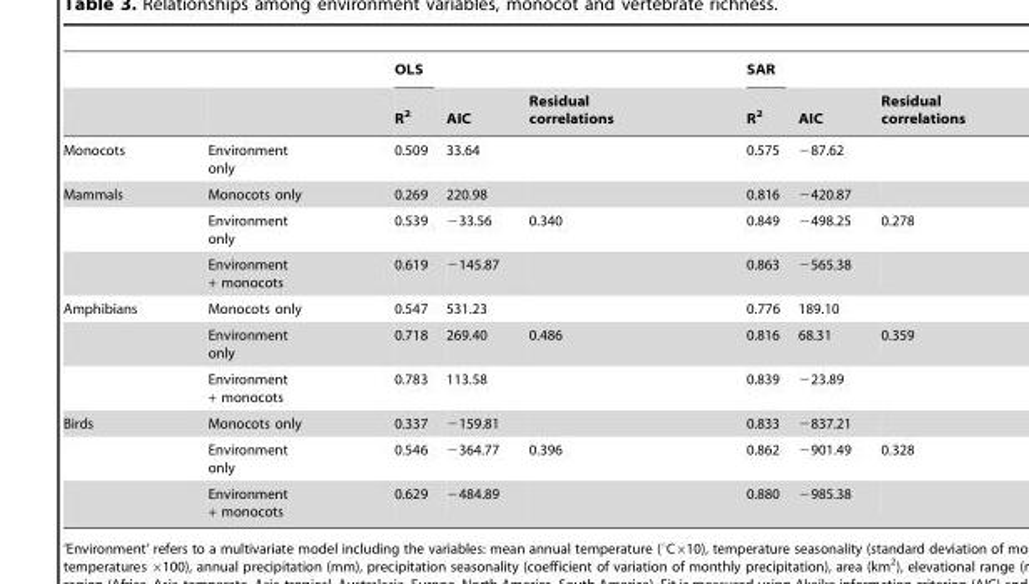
<table><thead><tr><td rowspan="2"></td><td rowspan="2"></td><td rowspan="2">OLS R<sup>2</sup></td><td rowspan="2">AIC</td><td rowspan="2">Residual correlations</td><td rowspan="2">SAR R<sup>2</sup></td><td rowspan="2">AIC</td><td rowspan="2">Residual correlations</td></tr><tr></tr></thead><tbody><tr><td>Monocots</td><td>Environment only</td><td>0.509</td><td>33.64</td><td></td><td>0.575</td><td>−87.62</td><td></td></tr><tr><td rowspan="3">Mammals</td><td>Monocots only</td><td>0.269</td><td>220.98</td><td></td><td>0.816</td><td>−420.87</td><td></td></tr><tr><td>Environment only</td><td>0.539</td><td>−33.56</td><td>0.340</td><td>0.849</td><td>−498.25</td><td>0.278</td></tr><tr><td>Environment + monocots</td><td>0.619</td><td>−145.87</td><td></td><td>0.863</td><td>−565.38</td><td></td></tr><tr><td rowspan="3">Amphibians</td><td>Monocots only</td><td>0.547</td><td>531.23</td><td></td><td>0.776</td><td>189.10</td><td></td></tr><tr><td>Environment only</td><td>0.718</td><td>269.40</td><td>0.486</td><td>0.816</td><td>68.31</td><td>0.359</td></tr><tr><td>Environment + monocots</td><td>0.783</td><td>113.58</td><td></td><td>0.839</td><td>−23.89</td><td></td></tr><tr><td rowspan="3">Birds</td><td>Monocots only</td><td>0.337</td><td>−159.81</td><td></td><td>0.833</td><td>−837.21</td><td></td></tr><tr><td>Environment only</td><td>0.546</td><td>−364.77</td><td>0.396</td><td>0.862</td><td>−901.49</td><td>0.328</td></tr><tr><td>Environment + monocots</td><td>0.629</td><td>−484.89</td><td></td><td>0.880</td><td>−985.38</td><td></td></tr></tbody></table>